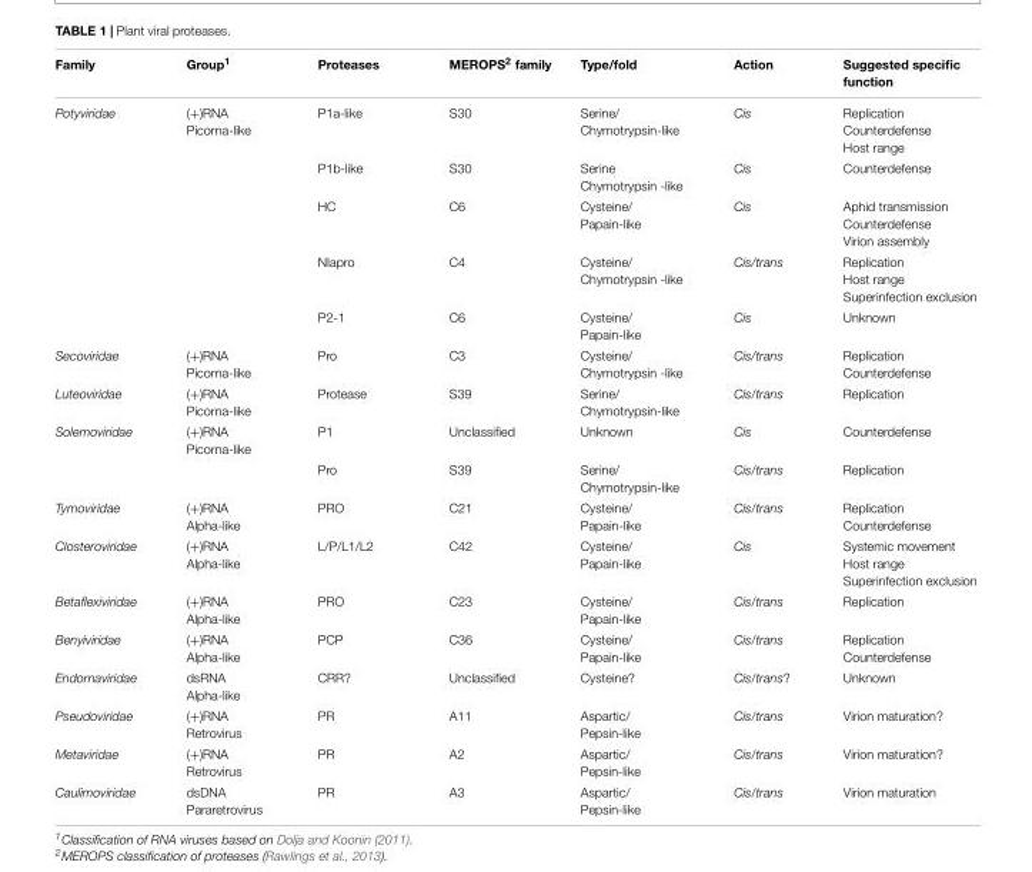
<table><thead><tr><td>Family</td><td>Group<sup>1</sup></td><td>Proteases</td><td>MEROPS<sup>2</sup> family</td><td>Type/fold</td><td>Action</td><td>Suggested specific function</td></tr></thead><tbody><tr><td rowspan="5">Potyviridae</td><td>(+)RNA Picorna-like</td><td>P1a-like</td><td>S30</td><td>Serine/ Chymotrypsin-like</td><td>Cis</td><td>Replication Counterdefense Host range</td></tr><tr><td></td><td>P1b-like</td><td>S30</td><td>Serine Chymotrypsin -like</td><td>Cis</td><td>Counterdefense</td></tr><tr><td></td><td>HC</td><td>C6</td><td>Cysteine/ Papain-like</td><td>Cis</td><td>Aphid transmission Counterdefense Virion assembly</td></tr><tr><td></td><td>NIapro</td><td>C4</td><td>Cysteine/ Chymotrypsin -like</td><td>Cis/trans</td><td>Replication Host range Superinfection exclusion</td></tr><tr><td></td><td>P2-1</td><td>C6</td><td>Cysteine/ Papain-like</td><td>Cis</td><td>Unknown</td></tr><tr><td>Secoviridae</td><td>(+)RNA Picorna-like</td><td>Pro</td><td>C3</td><td>Cysteine/ Chymotrypsin -like</td><td>Cis/trans</td><td>Replication Counterdefense</td></tr><tr><td>Luteoviridae</td><td>(+)RNA Picorna-like</td><td>Protease</td><td>S39</td><td>Serine/ Chymotrypsin-like</td><td>Cis/trans</td><td>Replication</td></tr><tr><td rowspan="2">Solemoviridae</td><td>(+)RNA Picorna-like</td><td>P1</td><td>Unclassified</td><td>Unknown</td><td>Cis</td><td>Counterdefense</td></tr><tr><td></td><td>Pro</td><td>S39</td><td>Serine/ Chymotrypsin-like</td><td>Cis/trans</td><td>Replication</td></tr><tr><td>Tymoviridae</td><td>(+)RNA Alpha-like</td><td>PRO</td><td>C21</td><td>Cysteine/ Papain-like</td><td>Cis/trans</td><td>Replication Counterdefense</td></tr><tr><td>Closteroviridae</td><td>(+)RNA Alpha-like</td><td>L/P/L1/L2</td><td>C42</td><td>Cysteine/ Papain-like</td><td>Cis</td><td>Systemic movement Host range Superinfection exclusion</td></tr><tr><td>Betaflexiviridae</td><td>(+)RNA Alpha-like</td><td>PRO</td><td>C23</td><td>Cysteine/ Papain-like</td><td>Cis/trans</td><td>Replication</td></tr><tr><td>Benyiviridae</td><td>(+)RNA Alpha-like</td><td>PCP</td><td>C36</td><td>Cysteine/ Papain-like</td><td>Cis/trans</td><td>Replication Counterdefense</td></tr><tr><td>Endornaviridae</td><td>dsRNA Alpha-like</td><td>CRR?</td><td>Unclassified</td><td>Cysteine?</td><td>Cis/trans?</td><td>Unknown</td></tr><tr><td>Pseudoviridae</td><td>(+)RNA Retrovirus</td><td>PR</td><td>A11</td><td>Aspartic/ Pepsin-like</td><td>Cis/trans</td><td>Virion maturation?</td></tr><tr><td>Metaviridae</td><td>(+)RNA Retrovirus</td><td>PR</td><td>A2</td><td>Aspartic/ Pepsin-like</td><td>Cis/trans</td><td>Virion maturation?</td></tr><tr><td>Caulimoviridae</td><td>dsDNA Pararetrovirus</td><td>PR</td><td>A3</td><td>Aspartic/ Pepsin-like</td><td>Cis/trans</td><td>Virion maturation</td></tr></tbody></table>